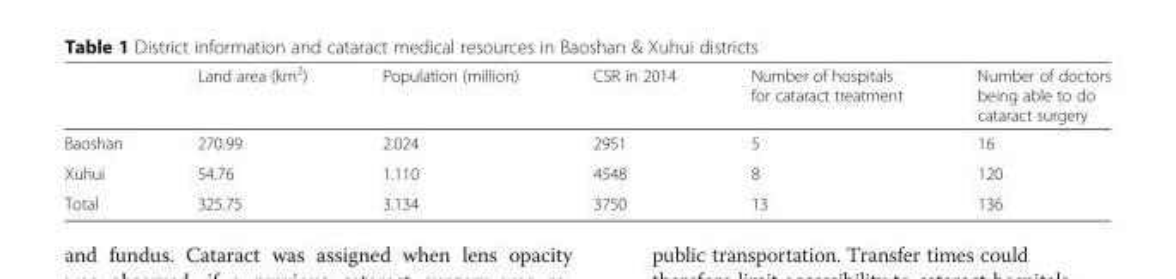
<table><thead><tr><td></td><td>Land area (km<sup>2</sup>)</td><td>Population (million)</td><td>CSR in 2014</td><td>Number of hospitals for cataract treatment</td><td>Number of doctors being able to do cataract surgery</td></tr></thead><tbody><tr><td>Baoshan</td><td>270.99</td><td>2.024</td><td>2951</td><td>5</td><td>16</td></tr><tr><td>Xuhui</td><td>54.76</td><td>1.110</td><td>4548</td><td>8</td><td>120</td></tr><tr><td>Total</td><td>325.75</td><td>3.134</td><td>3750</td><td>13</td><td>136</td></tr></tbody></table>